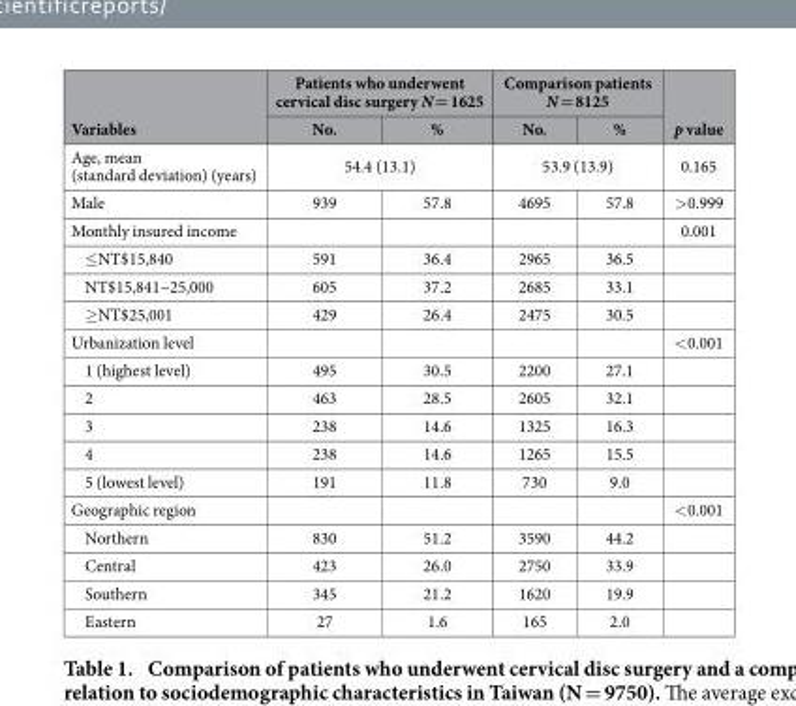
<table><thead><tr><td rowspan="2">Variables</td><td colspan="2">Patients who underwent cervical disc surgery N = 1625</td><td colspan="2">Comparison patients N = 8125</td><td rowspan="2">p value</td></tr><tr><td>No.</td><td>%</td><td>No.</td><td>%</td></tr></thead><tbody><tr><td>Age, mean (standard deviation) (years)</td><td colspan="2">54.4 (13.1)</td><td colspan="2">53.9 (13.9)</td><td>0.165</td></tr><tr><td>Male</td><td>939</td><td>57.8</td><td>4695</td><td>57.8</td><td>&gt; 0.999</td></tr><tr><td>Monthly insured income</td><td></td><td></td><td></td><td></td><td>0.001</td></tr><tr><td>≤ NT$15,840</td><td>591</td><td>36.4</td><td>2965</td><td>36.5</td><td></td></tr><tr><td>NT$15,841~25,000</td><td>605</td><td>37.2</td><td>2685</td><td>33.1</td><td></td></tr><tr><td>≥ NT$25,001</td><td>429</td><td>26.4</td><td>2475</td><td>30.5</td><td></td></tr><tr><td>Urbanization level</td><td></td><td></td><td></td><td></td><td>&lt; 0.001</td></tr><tr><td>1 (highest level)</td><td>495</td><td>30.5</td><td>2200</td><td>27.1</td><td></td></tr><tr><td>2</td><td>463</td><td>28.5</td><td>2605</td><td>32.1</td><td></td></tr><tr><td>3</td><td>238</td><td>14.6</td><td>1325</td><td>16.3</td><td></td></tr><tr><td>4</td><td>238</td><td>14.6</td><td>1265</td><td>15.5</td><td></td></tr><tr><td>5 (lowest level)</td><td>191</td><td>11.8</td><td>730</td><td>9.0</td><td></td></tr><tr><td>Geographic region</td><td></td><td></td><td></td><td></td><td>&lt; 0.001</td></tr><tr><td>Northern</td><td>830</td><td>51.2</td><td>3590</td><td>44.2</td><td></td></tr><tr><td>Central</td><td>423</td><td>26.0</td><td>2750</td><td>33.9</td><td></td></tr><tr><td>Southern</td><td>345</td><td>21.2</td><td>1620</td><td>19.9</td><td></td></tr><tr><td>Eastern</td><td>27</td><td>1.6</td><td>165</td><td>2.0</td><td></td></tr></tbody></table>